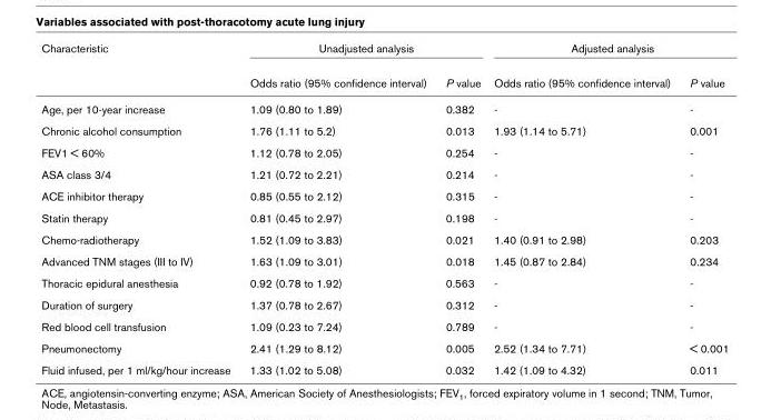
<table><thead><tr><td rowspan="2">Characteristic</td><td colspan="2">Unadjusted analysis</td><td colspan="2">Adjusted analysis</td></tr><tr><td>Odds ratio (95% confidence interval)</td><td>P value</td><td>Odds ratio (95% confidence interval)</td><td>P value</td></tr></thead><tbody><tr><td>Age, per 10-year increase</td><td>1.09 (0.80 to 1.89)</td><td>0.382</td><td>-</td><td>-</td></tr><tr><td>Chronic alcohol consumption</td><td>1.76 (1.11 to 5.2)</td><td>0.013</td><td>1.93 (1.14 to 5.71)</td><td>0.001</td></tr><tr><td>FEV1 &lt; 60%</td><td>1.12 (0.78 to 2.05)</td><td>0.254</td><td>-</td><td>-</td></tr><tr><td>ASA class 3/4</td><td>1.21 (0.72 to 2.21)</td><td>0.214</td><td>-</td><td>-</td></tr><tr><td>ACE inhibitor therapy</td><td>0.85 (0.55 to 2.12)</td><td>0.315</td><td>-</td><td>-</td></tr><tr><td>Statin therapy</td><td>0.81 (0.45 to 2.97)</td><td>0.198</td><td>-</td><td>-</td></tr><tr><td>Chemo-radiotherapy</td><td>1.52 (1.09 to 3.83)</td><td>0.021</td><td>1.40 (0.91 to 2.98)</td><td>0.203</td></tr><tr><td>Advanced TNM stages (III to IV)</td><td>1.63 (1.09 to 3.01)</td><td>0.018</td><td>1.45 (0.87 to 2.84)</td><td>0.234</td></tr><tr><td>Thoracic epidural anesthesia</td><td>0.92 (0.78 to 1.92)</td><td>0.563</td><td>-</td><td>-</td></tr><tr><td>Duration of surgery</td><td>1.37 (0.78 to 2.67)</td><td>0.312</td><td>-</td><td>-</td></tr><tr><td>Red blood cell transfusion</td><td>1.09 (0.23 to 7.24)</td><td>0.789</td><td>-</td><td>-</td></tr><tr><td>Pneumonectomy</td><td>2.41 (1.29 to 8.12)</td><td>0.005</td><td>2.52 (1.34 to 7.71)</td><td>&lt; 0.001</td></tr><tr><td>Fluid infused, per 1 ml/kg/hour increase</td><td>1.33 (1.02 to 5.08)</td><td>0.032</td><td>1.42 (1.09 to 4.32)</td><td>0.011</td></tr></tbody></table>